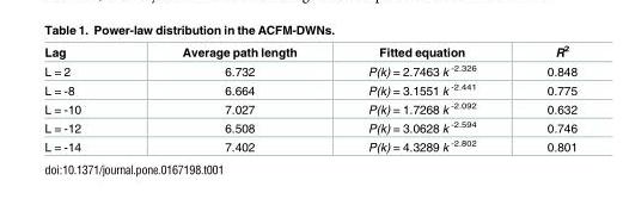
<table><thead><tr><td>Lag</td><td>Average path length</td><td>Fitted equation</td><td>R<sup>2</sup></td></tr></thead><tbody><tr><td>L = 2</td><td>6.732</td><td>P(k) = 2.7463 k <sup>-2.326</sup></td><td>0.848</td></tr><tr><td>L = -8</td><td>6.664</td><td>P(k) = 3.1551 k <sup>-2.441</sup></td><td>0.775</td></tr><tr><td>L = -10</td><td>7.027</td><td>P(k) = 1.7268 k <sup>-2.092</sup></td><td>0.632</td></tr><tr><td>L = -12</td><td>6.508</td><td>P(k) = 3.0628 k <sup>-2.594</sup></td><td>0.746</td></tr><tr><td>L = -14</td><td>7.402</td><td>P(k) = 4.3289 k <sup>-2.802</sup></td><td>0.801</td></tr></tbody></table>